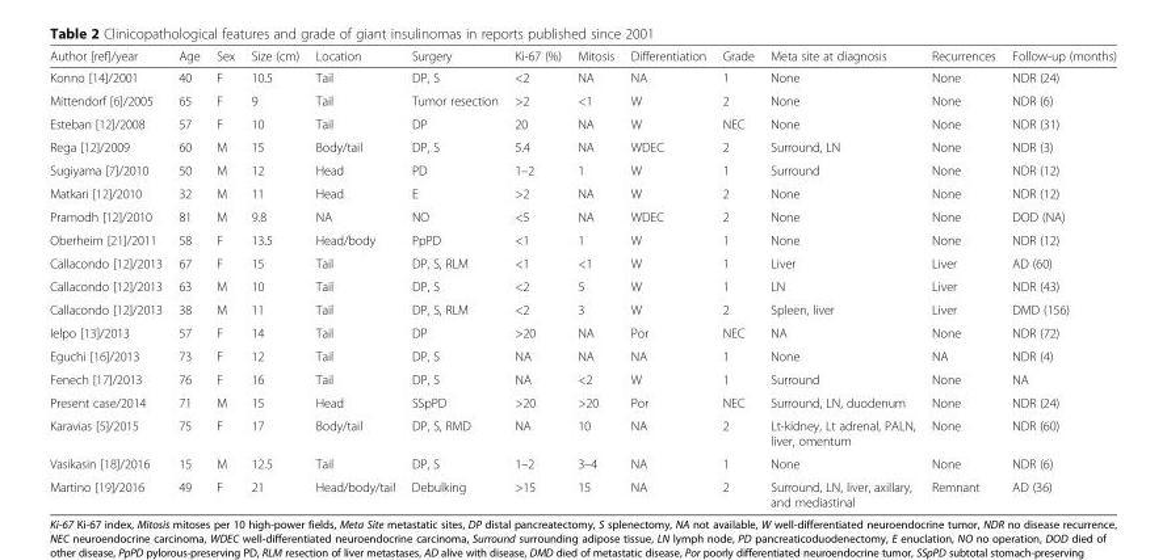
<table><thead><tr><td>Author [ref]/year</td><td>Age</td><td>Sex</td><td>Size (cm)</td><td>Location</td><td>Surgery</td><td>Ki-67 (%)</td><td>Mitosis</td><td>Differentiation</td><td>Grade</td><td>Meta site at diagnosis</td><td>Recurrences</td><td>Follow-up (months)</td></tr></thead><tbody><tr><td>Konno [14]/2001</td><td>40</td><td>F</td><td>10.5</td><td>Tail</td><td>DP, S</td><td>&lt;2</td><td>NA</td><td>NA</td><td>1</td><td>None</td><td>None</td><td>NDR (24)</td></tr><tr><td>Mittendorf [6]/2005</td><td>65</td><td>F</td><td>9</td><td>Tail</td><td>Tumor resection</td><td>&gt;2</td><td>&lt;1</td><td>W</td><td>2</td><td>None</td><td>None</td><td>NDR (6)</td></tr><tr><td>Esteban [12]/2008</td><td>57</td><td>F</td><td>10</td><td>Tail</td><td>DP</td><td>20</td><td>NA</td><td>W</td><td>NEC</td><td>None</td><td>None</td><td>NDR (31)</td></tr><tr><td>Rega [12]/2009</td><td>60</td><td>M</td><td>15</td><td>Body/tail</td><td>DP, S</td><td>5.4</td><td>NA</td><td>WDEC</td><td>2</td><td>Surround, LN</td><td>None</td><td>NDR (3)</td></tr><tr><td>Sugiyama [7]/2010</td><td>50</td><td>M</td><td>12</td><td>Head</td><td>PD</td><td>1–2</td><td>1</td><td>W</td><td>1</td><td>Surround</td><td>None</td><td>NDR (12)</td></tr><tr><td>Matkari [12]/2010</td><td>32</td><td>M</td><td>11</td><td>Head</td><td>E</td><td>&gt;2</td><td>NA</td><td>W</td><td>2</td><td>None</td><td>None</td><td>NDR (12)</td></tr><tr><td>Pramodh [12]/2010</td><td>81</td><td>M</td><td>9.8</td><td>NA</td><td>NO</td><td>&lt;5</td><td>NA</td><td>WDEC</td><td>2</td><td>None</td><td>None</td><td>DOD (NA)</td></tr><tr><td>Oberheim [21]/2011</td><td>58</td><td>F</td><td>13.5</td><td>Head/body</td><td>PpPD</td><td>&lt;1</td><td>1</td><td>W</td><td>1</td><td>None</td><td>None</td><td>NDR (12)</td></tr><tr><td>Callacondo [12]/2013</td><td>67</td><td>F</td><td>15</td><td>Tail</td><td>DP, S, RLM</td><td>&lt;1</td><td>&lt;1</td><td>W</td><td>1</td><td>Liver</td><td>Liver</td><td>AD (60)</td></tr><tr><td>Callacondo [12]/2013</td><td>63</td><td>M</td><td>10</td><td>Tail</td><td>DP, S</td><td>&lt;2</td><td>5</td><td>W</td><td>1</td><td>LN</td><td>Liver</td><td>NDR (43)</td></tr><tr><td>Callacondo [12]/2013</td><td>38</td><td>M</td><td>11</td><td>Tail</td><td>DP, S, RLM</td><td>&lt;2</td><td>3</td><td>W</td><td>2</td><td>Spleen, liver</td><td>Liver</td><td>DMD (156)</td></tr><tr><td>Ielpo [13]/2013</td><td>57</td><td>F</td><td>14</td><td>Tail</td><td>DP</td><td>&gt;20</td><td>NA</td><td>Por</td><td>NEC</td><td>NA</td><td>None</td><td>NDR (72)</td></tr><tr><td>Eguchi [16]/2013</td><td>73</td><td>F</td><td>12</td><td>Tail</td><td>DP, S</td><td>NA</td><td>NA</td><td>NA</td><td>1</td><td>None</td><td>NA</td><td>NDR (4)</td></tr><tr><td>Fenech [17]/2013</td><td>76</td><td>F</td><td>16</td><td>Tail</td><td>DP, S</td><td>NA</td><td>&lt;2</td><td>W</td><td>1</td><td>Surround</td><td>None</td><td>NA</td></tr><tr><td>Present case/2014</td><td>71</td><td>M</td><td>15</td><td>Head</td><td>SSpPD</td><td>&gt;20</td><td>&gt;20</td><td>Por</td><td>NEC</td><td>Surround, LN, duodenum</td><td>None</td><td>NDR (24)</td></tr><tr><td>Karavias [5]/2015</td><td>75</td><td>F</td><td>17</td><td>Body/tail</td><td>DP, S, RMD</td><td>NA</td><td>10</td><td>NA</td><td>2</td><td>Lt-kidney, Lt adrenal, PALN, liver, omentum</td><td>None</td><td>NDR (60)</td></tr><tr><td>Vasikasin [18]/2016</td><td>15</td><td>M</td><td>12.5</td><td>Tail</td><td>DP, S</td><td>1–2</td><td>3–4</td><td>NA</td><td>1</td><td>None</td><td>None</td><td>NDR (6)</td></tr><tr><td>Martino [19]/2016</td><td>49</td><td>F</td><td>21</td><td>Head/body/tail</td><td>Debulking</td><td>&gt;15</td><td>15</td><td>NA</td><td>2</td><td>Surround, LN, liver, axillary, and mediastinal</td><td>Remnant</td><td>AD (36)</td></tr></tbody></table>